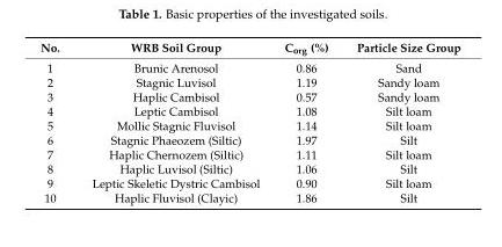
<table><thead><tr><td>No.</td><td>WRB Soil Group</td><td>C<sub>org</sub> (%)</td><td>Particle Size Group</td></tr></thead><tbody><tr><td>1</td><td>Brunic Arenosol</td><td>0.86</td><td>Sand</td></tr><tr><td>2</td><td>Stagnic Luvisol</td><td>1.19</td><td>Sandy loam</td></tr><tr><td>3</td><td>Haplic Cambisol</td><td>0.57</td><td>Sandy loam</td></tr><tr><td>4</td><td>Leptic Cambisol</td><td>1.08</td><td>Silt loam</td></tr><tr><td>5</td><td>Mollic Stagnic Fluvisol</td><td>1.14</td><td>Silt loam</td></tr><tr><td>6</td><td>Stagnic Phaeozem (Siltic)</td><td>1.97</td><td>Silt</td></tr><tr><td>7</td><td>Haplic Chernozem (Siltic)</td><td>1.11</td><td>Silt loam</td></tr><tr><td>8</td><td>Haplic Luvisol (Siltic)</td><td>1.06</td><td>Silt</td></tr><tr><td>9</td><td>Leptic Skeletic Dystric Cambisol</td><td>0.90</td><td>Silt loam</td></tr><tr><td>10</td><td>Haplic Fluvisol (Clayic)</td><td>1.86</td><td>Silt</td></tr></tbody></table>